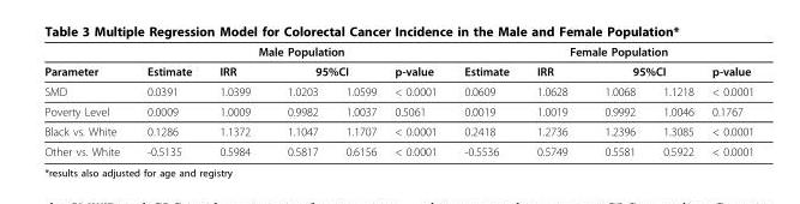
<table><thead><tr><td rowspan="3">Parameter SMD</td><td colspan="5">Male Population</td><td colspan="5">Female Population</td></tr><tr><td rowspan="2">Estimate 0.0391</td><td rowspan="2">IRR 1.0399</td><td colspan="2">95%CI</td><td rowspan="2">p-value &lt; 0.0001</td><td rowspan="2">Estimate 0.0609</td><td rowspan="2">IRR 1.0628</td><td colspan="2">95%CI</td><td rowspan="2">p-value &lt; 0.0001</td></tr><tr><td>1.0203</td><td>1.0599</td><td>1.0068</td><td>1.1218</td></tr></thead><tbody><tr><td>Poverty Level</td><td>0.0009</td><td>1.0009</td><td>0.9982</td><td>1.0037</td><td>0.5061</td><td>0.0019</td><td>1.0019</td><td>0.9992</td><td>1.0046</td><td>0.1767</td></tr><tr><td>Black vs. White</td><td>0.1286</td><td>1.1372</td><td>1.1047</td><td>1.1707</td><td>&lt; 0.0001</td><td>0.2418</td><td>1.2736</td><td>1.2396</td><td>1.3085</td><td>&lt; 0.0001</td></tr><tr><td>Other vs. White</td><td>-0.5135</td><td>0.5984</td><td>0.5817</td><td>0.6156</td><td>&lt; 0.0001</td><td>-0.5536</td><td>0.5749</td><td>0.5581</td><td>0.5922</td><td>&lt; 0.0001</td></tr></tbody></table>